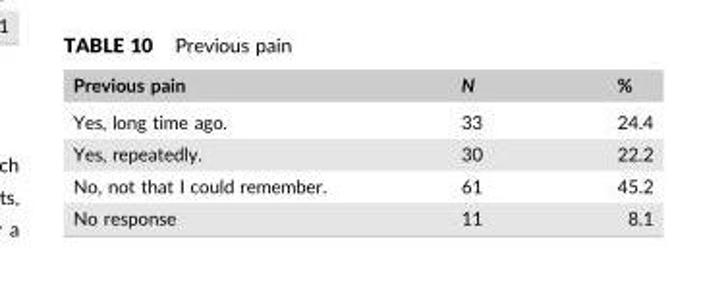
<table><thead><tr><td>Previous pain</td><td>N</td><td>%</td></tr></thead><tbody><tr><td>Yes, long time ago.</td><td>33</td><td>24.4</td></tr><tr><td>Yes, repeatedly.</td><td>30</td><td>22.2</td></tr><tr><td>No, not that I could remember.</td><td>61</td><td>45.2</td></tr><tr><td>No response</td><td>11</td><td>8.1</td></tr></tbody></table>